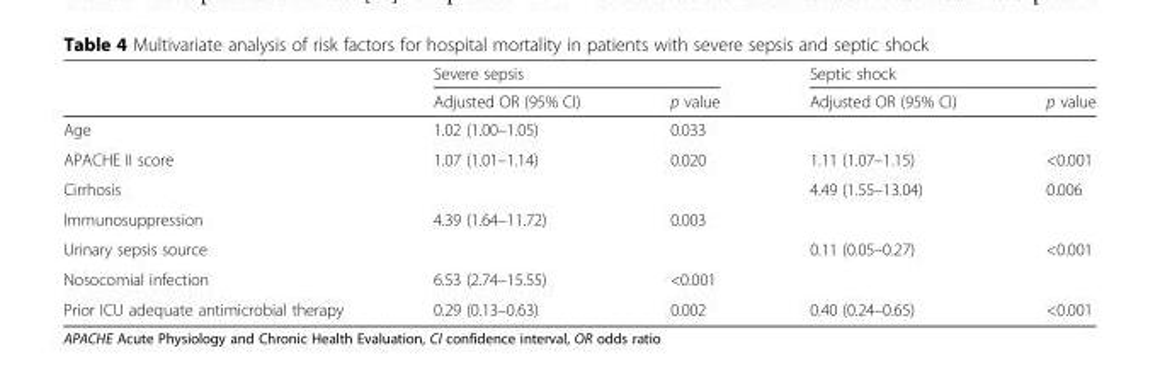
<table><thead><tr><td rowspan="2"></td><td colspan="2">Severe sepsis</td><td colspan="2">Septic shock</td></tr><tr><td>Adjusted OR (95% CI)</td><td>p value</td><td>Adjusted OR (95% CI)</td><td>p value</td></tr></thead><tbody><tr><td>Age</td><td>1.02 (1.00–1.05)</td><td>0.033</td><td></td><td></td></tr><tr><td>APACHE II score</td><td>1.07 (1.01–1.14)</td><td>0.020</td><td>1.11 (1.07–1.15)</td><td>&lt;0.001</td></tr><tr><td>Cirrhosis</td><td></td><td></td><td>4.49 (1.55–13.04)</td><td>0.006</td></tr><tr><td>Immunosuppression</td><td>4.39 (1.64–11.72)</td><td>0.003</td><td></td><td></td></tr><tr><td>Urinary sepsis source</td><td></td><td></td><td>0.11 (0.05–0.27)</td><td>&lt;0.001</td></tr><tr><td>Nosocomial infection</td><td>6.53 (2.74–15.55)</td><td>&lt;0.001</td><td></td><td></td></tr><tr><td>Prior ICU adequate antimicrobial therapy</td><td>0.29 (0.13–0.63)</td><td>0.002</td><td>0.40 (0.24–0.65)</td><td>&lt;0.001</td></tr></tbody></table>